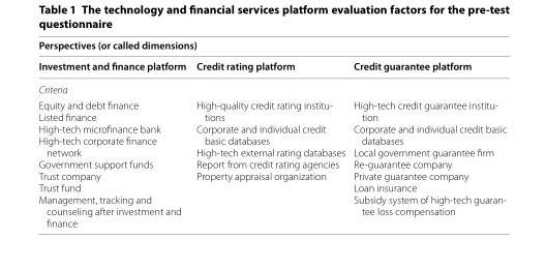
<table><thead><tr><td colspan="3">Perspectives (or called dimensions)</td></tr><tr><td>Investment and finance platform</td><td>Credit rating platform</td><td>Credit guarantee platform</td></tr></thead><tbody><tr><td colspan="3">Criteria</td></tr><tr><td>Equity and debt finance Listed finance High‑tech microfinance bank High‑tech corporate finance network Government support funds Trust company Trust fund Management, tracking and counseling after investment and finance</td><td>High‑quality credit rating institu‑ tions Corporate and individual credit basic databases High‑tech external rating databases Report from credit rating agencies Property appraisal organization</td><td>High‑tech credit guarantee institu‑ tion Corporate and individual credit basic databases Local government guarantee firm Re‑guarantee company Private guarantee company Loan insurance Subsidy system of high‑tech guaran‑ tee loss compensation</td></tr></tbody></table>